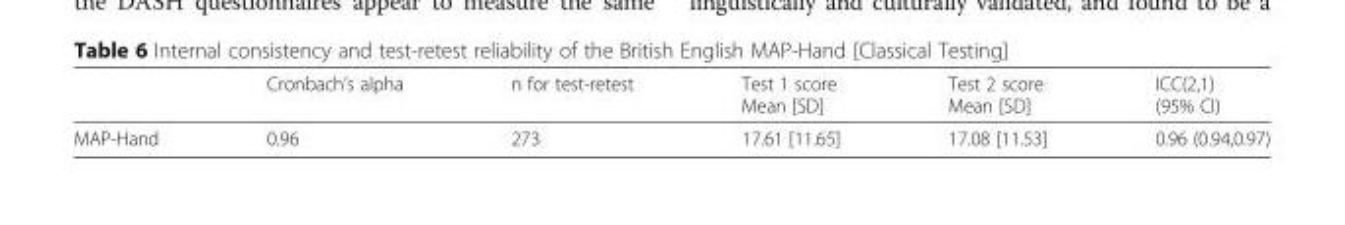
<table><thead><tr><td></td><td>Cronbach’s alpha</td><td>n for test-retest</td><td>Test 1 score Mean [SD]</td><td>Test 2 score Mean [SD]</td><td>ICC(2,1) (95% CI)</td></tr></thead><tbody><tr><td>MAP-Hand</td><td>0.96</td><td>273</td><td>17.61 [11.65]</td><td>17.08 [11.53]</td><td>0.96 (0.94,0.97)</td></tr></tbody></table>